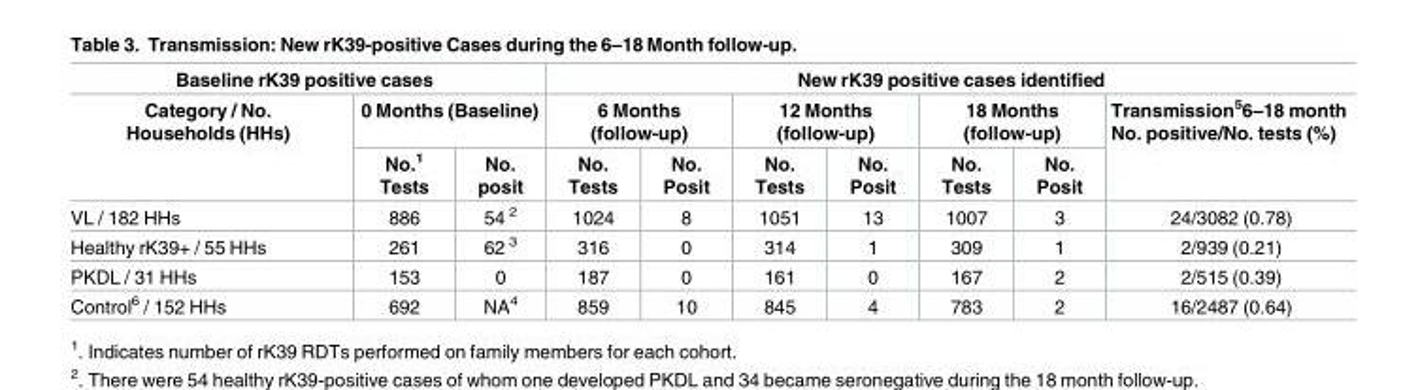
<table><thead><tr><td colspan="3">Baseline rK39 positive cases</td><td colspan="7">New rK39 positive cases identified</td></tr><tr><td rowspan="2">Category / No. Households (HHs)</td><td colspan="2">0 Months (Baseline)</td><td colspan="2">6 Months (follow-up)</td><td colspan="2">12 Months (follow-up)</td><td colspan="2">18 Months (follow-up)</td><td rowspan="2">Transmission<sup>5</sup>6–18 month No. positive/No. tests (%)</td></tr><tr><td>No.<sup>1</sup> Tests</td><td>No. posit</td><td>No. Tests</td><td>No. Posit</td><td>No. Tests</td><td>No. Posit</td><td>No. Tests</td><td>No. Posit</td></tr></thead><tbody><tr><td>VL / 182 HHs</td><td>886</td><td>54 <sup>2</sup></td><td>1024</td><td>8</td><td>1051</td><td>13</td><td>1007</td><td>3</td><td>24/3082 (0.78)</td></tr><tr><td>Healthy rK39+ / 55 HHs</td><td>261</td><td>62 <sup>3</sup></td><td>316</td><td>0</td><td>314</td><td>1</td><td>309</td><td>1</td><td>2/939 (0.21)</td></tr><tr><td>PKDL / 31 HHs</td><td>153</td><td>0</td><td>187</td><td>0</td><td>161</td><td>0</td><td>167</td><td>2</td><td>2/515 (0.39)</td></tr><tr><td>Control<sup>6</sup> / 152 HHs</td><td>692</td><td>NA<sup>4</sup></td><td>859</td><td>10</td><td>845</td><td>4</td><td>783</td><td>2</td><td>16/2487 (0.64)</td></tr></tbody></table>